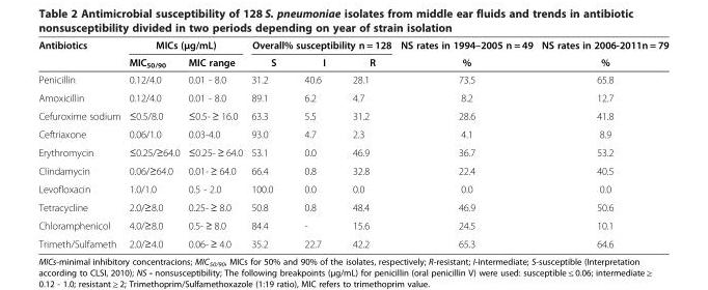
<table><thead><tr><td rowspan="2">Antibiotics</td><td colspan="2">MICs (μg/mL)</td><td colspan="3">Overall% susceptibility n = 128</td><td rowspan="2">NS rates in 1994–2005 n = 49 %</td><td rowspan="2">NS rates in 2006-2011n = 79 %</td></tr><tr><td>MIC<sub>50/90</sub></td><td>MIC range</td><td>S</td><td>I</td><td>R</td></tr></thead><tbody><tr><td>Penicillin</td><td>0.12/4.0</td><td>0.01 - 8.0</td><td>31.2</td><td>40.6</td><td>28.1</td><td>73.5</td><td>65.8</td></tr><tr><td>Amoxicillin</td><td>0.12/4.0</td><td>0.01 - 8.0</td><td>89.1</td><td>6.2</td><td>4.7</td><td>8.2</td><td>12.7</td></tr><tr><td>Cefuroxime sodium</td><td>≤0.5/8.0</td><td>≤0.5- ≥ 16.0</td><td>63.3</td><td>5.5</td><td>31.2</td><td>28.6</td><td>41.8</td></tr><tr><td>Ceftriaxone</td><td>0.06/1.0</td><td>0.03-4.0</td><td>93.0</td><td>4.7</td><td>2.3</td><td>4.1</td><td>8.9</td></tr><tr><td>Erythromycin</td><td>≤0.25/≥64.0</td><td>≤0.25- ≥ 64.0</td><td>53.1</td><td>0.0</td><td>46.9</td><td>36.7</td><td>53.2</td></tr><tr><td>Clindamycin</td><td>0.06/≥64.0</td><td>0.01- ≥ 64.0</td><td>66.4</td><td>0.8</td><td>32.8</td><td>22.4</td><td>40.5</td></tr><tr><td>Levofloxacin</td><td>1.0/1.0</td><td>0.5 - 2.0</td><td>100.0</td><td>0.0</td><td>0.0</td><td>0.0</td><td>0.0</td></tr><tr><td>Tetracycline</td><td>2.0/≥8.0</td><td>0.25- ≥ 8.0</td><td>50.8</td><td>0.8</td><td>48.4</td><td>46.9</td><td>50.6</td></tr><tr><td>Chloramphenicol</td><td>4.0/≥8.0</td><td>0.5- ≥ 8.0</td><td>84.4</td><td>-</td><td>15.6</td><td>24.5</td><td>10.1</td></tr><tr><td>Trimeth/Sulfameth</td><td>2.0/≥4.0</td><td>0.06- ≥ 4.0</td><td>35.2</td><td>22.7</td><td>42.2</td><td>65.3</td><td>64.6</td></tr></tbody></table>